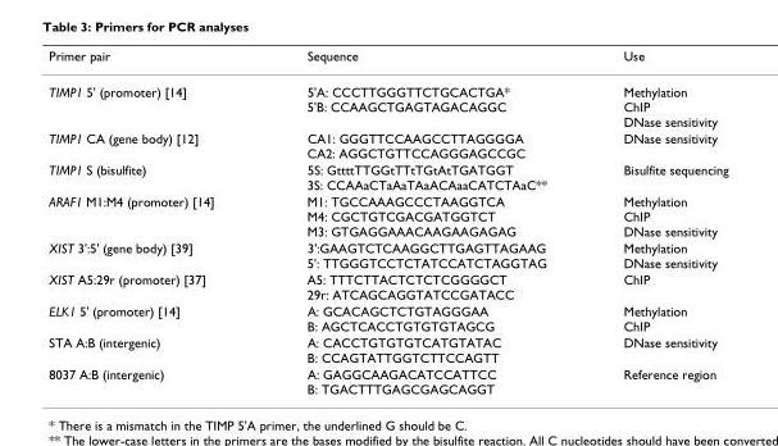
<table><thead><tr><td>Primer pair</td><td>Sequence</td><td>Use</td></tr></thead><tbody><tr><td>TIMP1 5&#x27; (promoter) [14]</td><td>5&#x27;A: CCCTTGGGTTCTGCACTGA* 5&#x27;B: CCAAGCTGAGTAGACAGGC</td><td>Methylation ChIP DNase sensitivity</td></tr><tr><td>TIMP1 CA (gene body) [12]</td><td>CA1: GGGTTCCAAGCCTTAGGGGA CA2: AGGCTGTTCCAGGGAGCCGC</td><td>DNase sensitivity</td></tr><tr><td>TIMP1 S (bisulfite)</td><td>5S: GttttTTGGtTTtTGtAtTGATGGT 3S: CCAAaCTaAaTAaACAaaCATCTAaC**</td><td>Bisulfite sequencing</td></tr><tr><td>ARAF1 M1:M4 (promoter) [14]</td><td>M1: TGCCAAAGCCCTAAGGTCA M4: CGCTGTCGACGATGGTCT M3: GTGAGGAAACAAGAAGAGAG</td><td>Methylation ChIP DNase sensitivity</td></tr><tr><td>XIST 3&#x27;:5&#x27; (gene body) [39]</td><td>3&#x27;:GAAGTCTCAAGGCTTGAGTTAGAAG 5&#x27;: TTGGGTCCTCTATCCATCTAGGTAG</td><td>Methylation DNase sensitivity</td></tr><tr><td>XIST A5:29r (promoter) [37]</td><td>A5: TTTCTTACTCTCTCGGGGCT 29r: ATCAGCAGGTATCCGATACC</td><td>ChIP</td></tr><tr><td>ELK1 5&#x27; (promoter) [14]</td><td>A: GCACAGCTCTGTAGGGAA B: AGCTCACCTGTGTGTAGCG</td><td>Methylation ChIP</td></tr><tr><td>STA A:B (intergenic)</td><td>A: CACCTGTGTGTCATGTATAC B: CCAGTATTGGTCTTCCAGTT</td><td>DNase sensitivity</td></tr><tr><td>8037 A:B (intergenic)</td><td>A: GAGGCAAGACATCCATTCC B: TGACTTTGAGCGAGCAGGT</td><td>Reference region</td></tr></tbody></table>